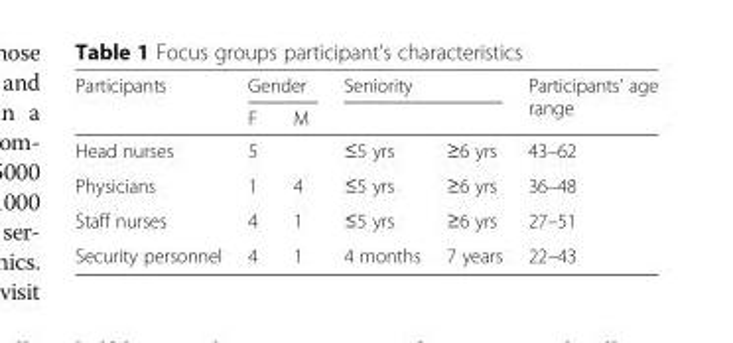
<table><thead><tr><td rowspan="2">Participants</td><td colspan="2">Gender</td><td colspan="2">Seniority</td><td rowspan="2">Participants’ age range</td></tr><tr><td>F</td><td>M</td><td></td><td></td></tr></thead><tbody><tr><td>Head nurses</td><td>5</td><td></td><td>≤5 yrs</td><td>≥6 yrs</td><td>43–62</td></tr><tr><td>Physicians</td><td>1</td><td>4</td><td>≤5 yrs</td><td>≥6 yrs</td><td>36–48</td></tr><tr><td>Staff nurses</td><td>4</td><td>1</td><td>≤5 yrs</td><td>≥6 yrs</td><td>27–51</td></tr><tr><td>Security personnel</td><td>4</td><td>1</td><td>4 months</td><td>7 years</td><td>22–43</td></tr></tbody></table>